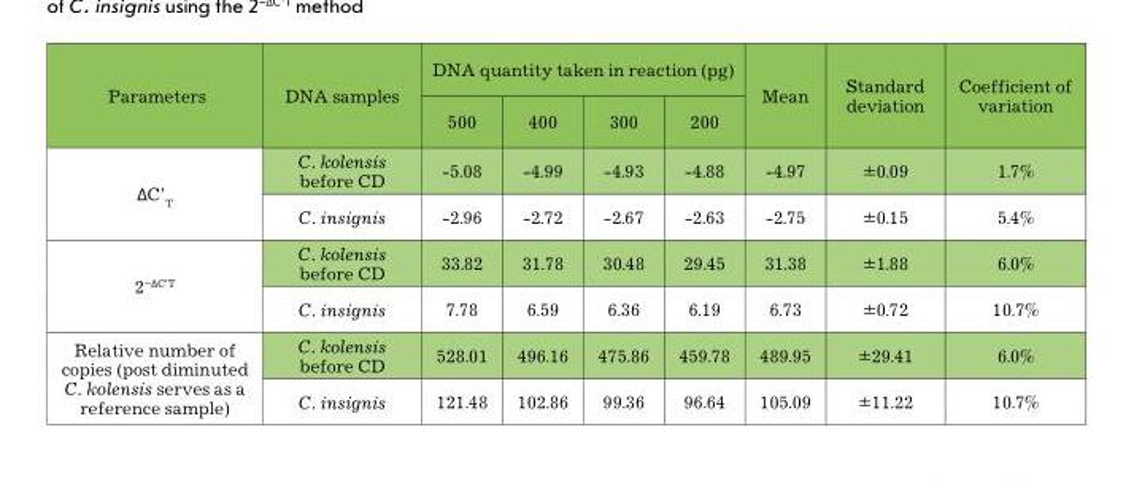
<table><thead><tr><td rowspan="2">Parameters</td><td rowspan="2">DNA samples</td><td colspan="4">DNA quantity taken in reaction (pg)</td><td rowspan="2">Mean</td><td rowspan="2">Standard deviation</td><td rowspan="2">Coefficient of variation</td></tr><tr><td>500</td><td>400</td><td>300</td><td>200</td></tr></thead><tbody><tr><td rowspan="2">∆C’<sub>T</sub></td><td>C. kolensis before CD</td><td>-5.08</td><td>-4.99</td><td>-4.93</td><td>-4.88</td><td>-4.97</td><td>±0.09</td><td>1.7%</td></tr><tr><td>C. insignis</td><td>-2.96</td><td>-2.72</td><td>-2.67</td><td>-2.63</td><td>-2.75</td><td>±0.15</td><td>5.4%</td></tr><tr><td rowspan="2">2<sup>–∆C’T</sup></td><td>C. kolensis before CD</td><td>33.82</td><td>31.78</td><td>30.48</td><td>29.45</td><td>31.38</td><td>±1.88</td><td>6.0%</td></tr><tr><td>C. insignis</td><td>7.78</td><td>6.59</td><td>6.36</td><td>6.19</td><td>6.73</td><td>±0.72</td><td>10.7%</td></tr><tr><td rowspan="2">Relative number of copies (post diminuted C. kolensis serves as a reference sample)</td><td>C. kolensis before CD</td><td>528.01</td><td>496.16</td><td>475.86</td><td>459.78</td><td>489.95</td><td>±29.41</td><td>6.0%</td></tr><tr><td>C. insignis</td><td>121.48</td><td>102.86</td><td>99.36</td><td>96.64</td><td>105.09</td><td>±11.22</td><td>10.7%</td></tr></tbody></table>